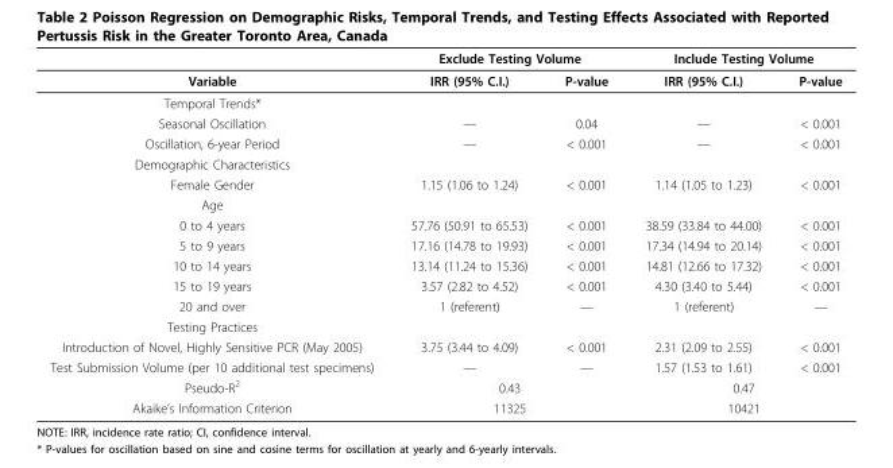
<table><thead><tr><td rowspan="2">Variable</td><td colspan="2">Exclude Testing Volume</td><td colspan="2">Include Testing Volume</td></tr><tr><td>IRR (95% C.I.)</td><td>P-value</td><td>IRR (95% C.I.)</td><td>P-value</td></tr></thead><tbody><tr><td colspan="5">Temporal Trends*</td></tr><tr><td>Seasonal Oscillation</td><td>—</td><td>0.04</td><td>—</td><td>&lt; 0.001</td></tr><tr><td>Oscillation, 6-year Period</td><td>—</td><td>&lt; 0.001</td><td>—</td><td>&lt; 0.001</td></tr><tr><td colspan="5">Demographic Characteristics</td></tr><tr><td>Female Gender</td><td>1.15 (1.06 to 1.24)</td><td>&lt; 0.001</td><td>1.14 (1.05 to 1.23)</td><td>&lt; 0.001</td></tr><tr><td colspan="5">Age</td></tr><tr><td>0 to 4 years</td><td>57.76 (50.91 to 65.53)</td><td>&lt; 0.001</td><td>38.59 (33.84 to 44.00)</td><td>&lt; 0.001</td></tr><tr><td>5 to 9 years</td><td>17.16 (14.78 to 19.93)</td><td>&lt; 0.001</td><td>17.34 (14.94 to 20.14)</td><td>&lt; 0.001</td></tr><tr><td>10 to 14 years</td><td>13.14 (11.24 to 15.36)</td><td>&lt; 0.001</td><td>14.81 (12.66 to 17.32)</td><td>&lt; 0.001</td></tr><tr><td>15 to 19 years</td><td>3.57 (2.82 to 4.52)</td><td>&lt; 0.001</td><td>4.30 (3.40 to 5.44)</td><td>&lt; 0.001</td></tr><tr><td>20 and over</td><td>1 (referent)</td><td>—</td><td>1 (referent)</td><td>—</td></tr><tr><td colspan="5">Testing Practices</td></tr><tr><td>Introduction of Novel, Highly Sensitive PCR (May 2005)</td><td>3.75 (3.44 to 4.09)</td><td>&lt; 0.001</td><td>2.31 (2.09 to 2.55)</td><td>&lt; 0.001</td></tr><tr><td>Test Submission Volume (per 10 additional test specimens)</td><td>—</td><td>—</td><td>1.57 (1.53 to 1.61)</td><td>&lt; 0.001</td></tr><tr><td>Pseudo-R<sup>2</sup></td><td colspan="2">0.43</td><td colspan="2">0.47</td></tr><tr><td>Akaike’s Information Criterion</td><td colspan="2">11325</td><td colspan="2">10421</td></tr></tbody></table>